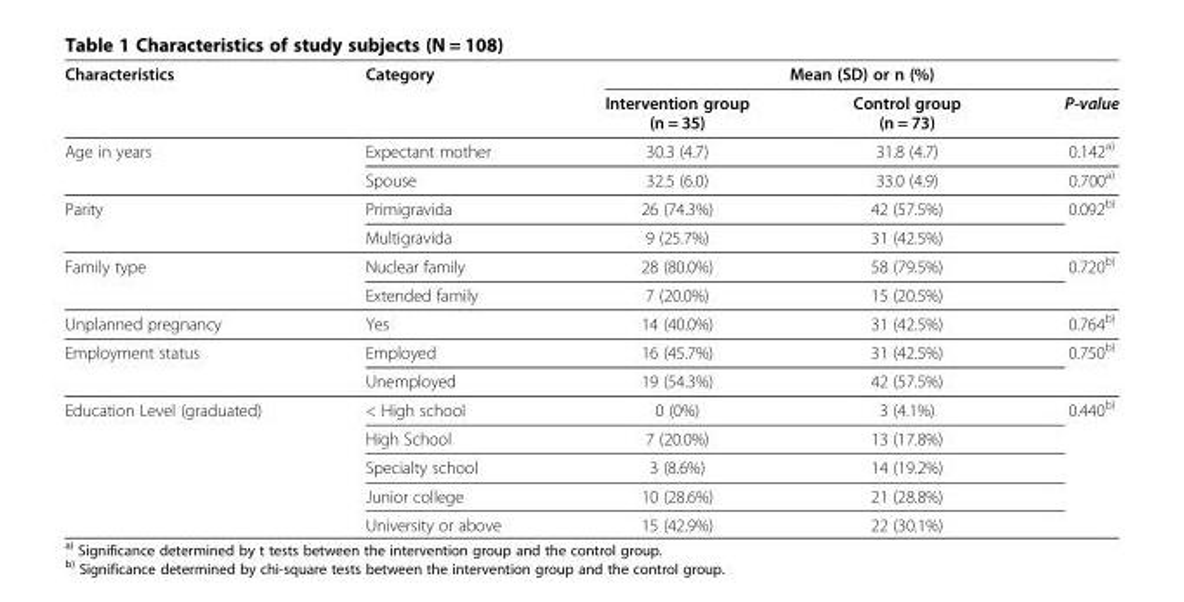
<table><thead><tr><td rowspan="2">Characteristics</td><td rowspan="2">Category</td><td colspan="3">Mean (SD) or n (%)</td></tr><tr><td>Intervention group (n = 35)</td><td>Control group (n = 73)</td><td>P-value</td></tr></thead><tbody><tr><td rowspan="2">Age in years</td><td>Expectant mother</td><td>30.3 (4.7)</td><td>31.8 (4.7)</td><td>0.142<sup>a)</sup></td></tr><tr><td>Spouse</td><td>32.5 (6.0)</td><td>33.0 (4.9)</td><td>0.700<sup>a)</sup></td></tr><tr><td rowspan="2">Parity</td><td>Primigravida</td><td>26 (74.3%)</td><td>42 (57.5%)</td><td rowspan="2">0.092<sup>b)</sup></td></tr><tr><td>Multigravida</td><td>9 (25.7%)</td><td>31 (42.5%)</td></tr><tr><td rowspan="2">Family type</td><td>Nuclear family</td><td>28 (80.0%)</td><td>58 (79.5%)</td><td rowspan="2">0.720<sup>b)</sup></td></tr><tr><td>Extended family</td><td>7 (20.0%)</td><td>15 (20.5%)</td></tr><tr><td>Unplanned pregnancy</td><td>Yes</td><td>14 (40.0%)</td><td>31 (42.5%)</td><td>0.764<sup>b)</sup></td></tr><tr><td rowspan="2">Employment status</td><td>Employed</td><td>16 (45.7%)</td><td>31 (42.5%)</td><td>0.750<sup>b)</sup></td></tr><tr><td>Unemployed</td><td>19 (54.3%)</td><td>42 (57.5%)</td><td></td></tr><tr><td rowspan="5">Education Level (graduated)</td><td>&lt; High school</td><td>0 (0%)</td><td>3 (4.1%)</td><td>0.440<sup>b)</sup></td></tr><tr><td>High School</td><td>7 (20.0%)</td><td>13 (17.8%)</td><td></td></tr><tr><td>Specialty school</td><td>3 (8.6%)</td><td>14 (19.2%)</td><td></td></tr><tr><td>Junior college</td><td>10 (28.6%)</td><td>21 (28.8%)</td><td></td></tr><tr><td>University or above</td><td>15 (42.9%)</td><td>22 (30.1%)</td><td></td></tr></tbody></table>